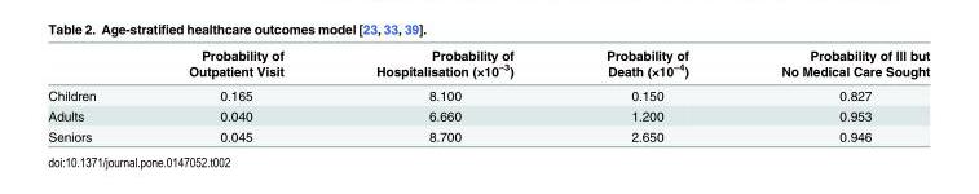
<table><thead><tr><td></td><td>Probability of Outpatient Visit</td><td>Probability of Hospitalisation (×10<sup>−3</sup>)</td><td>Probability of Death (×10<sup>−4</sup>)</td><td>Probability of Ill but No Medical Care Sought</td></tr></thead><tbody><tr><td>Children</td><td>0.165</td><td>8.100</td><td>0.150</td><td>0.827</td></tr><tr><td>Adults</td><td>0.040</td><td>6.660</td><td>1.200</td><td>0.953</td></tr><tr><td>Seniors</td><td>0.045</td><td>8.700</td><td>2.650</td><td>0.946</td></tr></tbody></table>